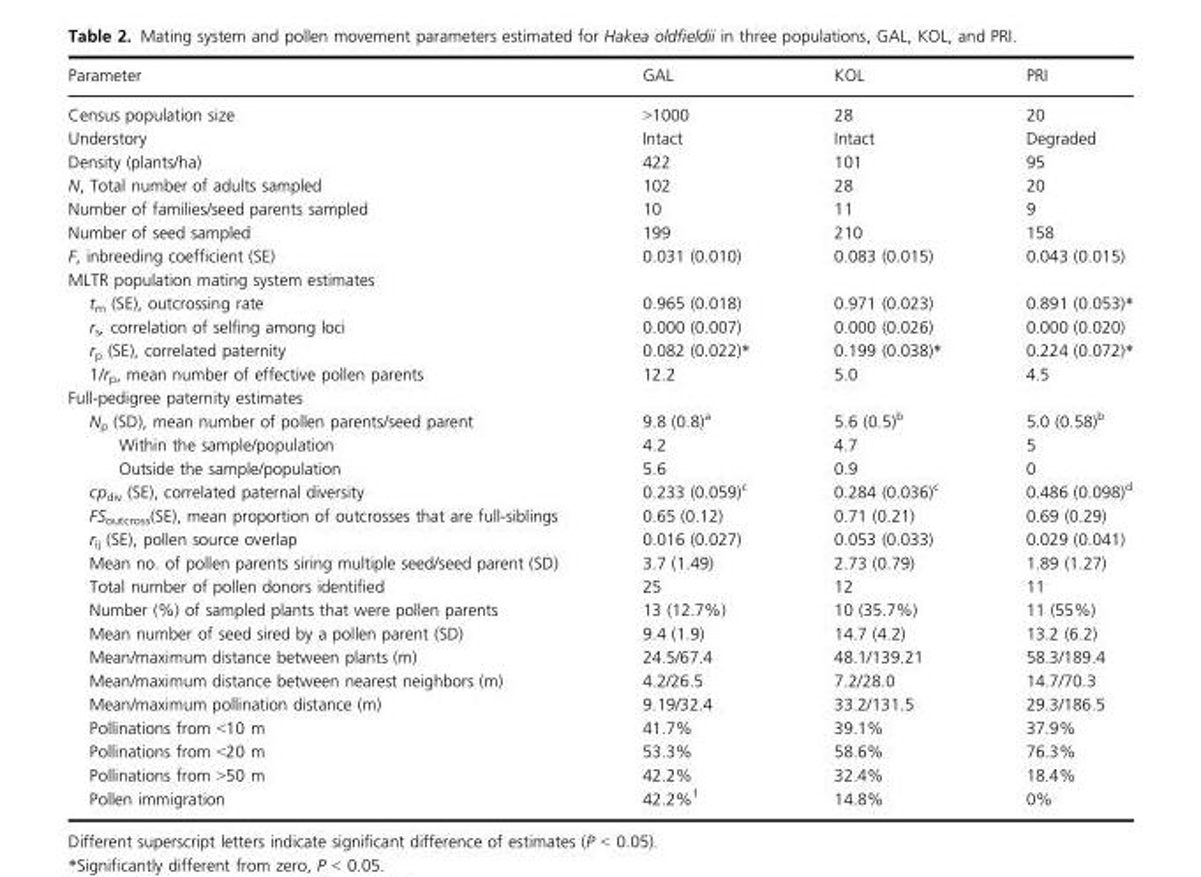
<table><thead><tr><td>Parameter</td><td>GAL</td><td>KOL</td><td>PRI</td></tr></thead><tbody><tr><td>Census population size</td><td>&gt;1000</td><td>28</td><td>20</td></tr><tr><td>Understory</td><td>Intact</td><td>Intact</td><td>Degraded</td></tr><tr><td>Density (plants/ha)</td><td>422</td><td>101</td><td>95</td></tr><tr><td>N, Total number of adults sampled</td><td>102</td><td>28</td><td>20</td></tr><tr><td>Number of families/seed parents sampled</td><td>10</td><td>11</td><td>9</td></tr><tr><td>Number of seed sampled</td><td>199</td><td>210</td><td>158</td></tr><tr><td>F, inbreeding coefficient (SE)</td><td>0.031 (0.010)</td><td>0.083 (0.015)</td><td>0.043 (0.015)</td></tr><tr><td colspan="4">MLTR population mating system estimates</td></tr><tr><td>t<sub>m</sub> (SE), outcrossing rate</td><td>0.965 (0.018)</td><td>0.971 (0.023)</td><td>0.891 (0.053)*</td></tr><tr><td>r<sub>s</sub>, correlation of selfing among loci</td><td>0.000 (0.007)</td><td>0.000 (0.026)</td><td>0.000 (0.020)</td></tr><tr><td>r<sub>p</sub> (SE), correlated paternity</td><td>0.082 (0.022)*</td><td>0.199 (0.038)*</td><td>0.224 (0.072)*</td></tr><tr><td>1/r<sub>p</sub>, mean number of effective pollen parents</td><td>12.2</td><td>5.0</td><td>4.5</td></tr><tr><td colspan="4">Full-pedigree paternity estimates</td></tr><tr><td>N<sub>p</sub> (SD), mean number of pollen parents/seed parent</td><td>9.8 (0.8)<sup>a</sup></td><td>5.6 (0.5)<sup>b</sup></td><td>5.0 (0.58)<sup>b</sup></td></tr><tr><td>Within the sample/population</td><td>4.2</td><td>4.7</td><td>5</td></tr><tr><td>Outside the sample/population</td><td>5.6</td><td>0.9</td><td>0</td></tr><tr><td>cp<sub>div</sub> (SE), correlated paternal diversity</td><td>0.233 (0.059)<sup>c</sup></td><td>0.284 (0.036)<sup>c</sup></td><td>0.486 (0.098)<sup>d</sup></td></tr><tr><td>FS<sub>outcross</sub>(SE), mean proportion of outcrosses that are full-siblings</td><td>0.65 (0.12)</td><td>0.71 (0.21)</td><td>0.69 (0.29)</td></tr><tr><td>r<sub>ij</sub> (SE), pollen source overlap</td><td>0.016 (0.027)</td><td>0.053 (0.033)</td><td>0.029 (0.041)</td></tr><tr><td>Mean no. of pollen parents siring multiple seed/seed parent (SD)</td><td>3.7 (1.49)</td><td>2.73 (0.79)</td><td>1.89 (1.27)</td></tr><tr><td>Total number of pollen donors identified</td><td>25</td><td>12</td><td>11</td></tr><tr><td>Number (%) of sampled plants that were pollen parents</td><td>13 (12.7%)</td><td>10 (35.7%)</td><td>11 (55%)</td></tr><tr><td>Mean number of seed sired by a pollen parent (SD)</td><td>9.4 (1.9)</td><td>14.7 (4.2)</td><td>13.2 (6.2)</td></tr><tr><td>Mean/maximum distance between plants (m)</td><td>24.5/67.4</td><td>48.1/139.21</td><td>58.3/189.4</td></tr><tr><td>Mean/maximum distance between nearest neighbors (m)</td><td>4.2/26.5</td><td>7.2/28.0</td><td>14.7/70.3</td></tr><tr><td>Mean/maximum pollination distance (m)</td><td>9.19/32.4</td><td>33.2/131.5</td><td>29.3/186.5</td></tr><tr><td>Pollinations from &lt;10 m</td><td>41.7%</td><td>39.1%</td><td>37.9%</td></tr><tr><td>Pollinations from &lt;20 m</td><td>53.3%</td><td>58.6%</td><td>76.3%</td></tr><tr><td>Pollinations from &gt;50 m</td><td>42.2%</td><td>32.4%</td><td>18.4%</td></tr><tr><td>Pollen immigration</td><td>42.2%1</td><td>14.8%</td><td>0%</td></tr></tbody></table>